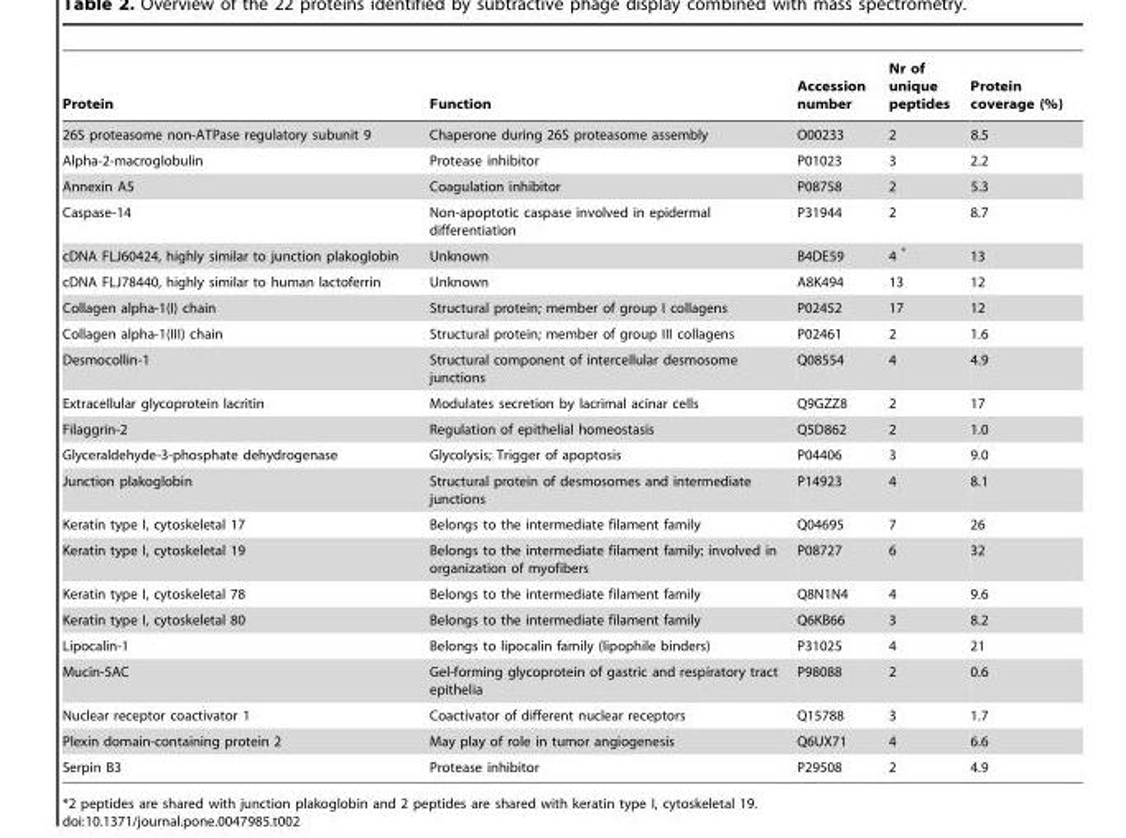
<table><thead><tr><td>Protein</td><td>Function</td><td>Accession number</td><td>Nr of unique peptides</td><td>Protein coverage (%)</td></tr></thead><tbody><tr><td>26S proteasome non-ATPase regulatory subunit 9</td><td>Chaperone during 26S proteasome assembly</td><td>O00233</td><td>2</td><td>8.5</td></tr><tr><td>Alpha-2-macroglobulin</td><td>Protease inhibitor</td><td>P01023</td><td>3</td><td>2.2</td></tr><tr><td>Annexin A5</td><td>Coagulation inhibitor</td><td>P08758</td><td>2</td><td>5.3</td></tr><tr><td>Caspase-14</td><td>Non-apoptotic caspase involved in epidermal differentiation</td><td>P31944</td><td>2</td><td>8.7</td></tr><tr><td>cDNA FLJ60424, highly similar to junction plakoglobin</td><td>Unknown</td><td>B4DE59</td><td>4 *</td><td>13</td></tr><tr><td>cDNA FLJ78440, highly similar to human lactoferrin</td><td>Unknown</td><td>A8K494</td><td>13</td><td>12</td></tr><tr><td>Collagen alpha-1(I) chain</td><td>Structural protein; member of group I collagens</td><td>P02452</td><td>17</td><td>12</td></tr><tr><td>Collagen alpha-1(III) chain</td><td>Structural protein; member of group III collagens</td><td>P02461</td><td>2</td><td>1.6</td></tr><tr><td>Desmocollin-1</td><td>Structural component of intercellular desmosome junctions</td><td>Q08554</td><td>4</td><td>4.9</td></tr><tr><td>Extracellular glycoprotein lacritin</td><td>Modulates secretion by lacrimal acinar cells</td><td>Q9GZZ8</td><td>2</td><td>17</td></tr><tr><td>Filaggrin-2</td><td>Regulation of epithelial homeostasis</td><td>Q5D862</td><td>2</td><td>1.0</td></tr><tr><td>Glyceraldehyde-3-phosphate dehydrogenase</td><td>Glycolysis; Trigger of apoptosis</td><td>P04406</td><td>3</td><td>9.0</td></tr><tr><td>Junction plakoglobin</td><td>Structural protein of desmosomes and intermediate junctions</td><td>P14923</td><td>4</td><td>8.1</td></tr><tr><td>Keratin type I, cytoskeletal 17</td><td>Belongs to the intermediate filament family</td><td>Q04695</td><td>7</td><td>26</td></tr><tr><td>Keratin type I, cytoskeletal 19</td><td>Belongs to the intermediate filament family; involved in organization of myofibers</td><td>P08727</td><td>6</td><td>32</td></tr><tr><td>Keratin type I, cytoskeletal 78</td><td>Belongs to the intermediate filament family</td><td>Q8N1N4</td><td>4</td><td>9.6</td></tr><tr><td>Keratin type I, cytoskeletal 80</td><td>Belongs to the intermediate filament family</td><td>Q6KB66</td><td>3</td><td>8.2</td></tr><tr><td>Lipocalin-1</td><td>Belongs to lipocalin family (lipophile binders)</td><td>P31025</td><td>4</td><td>21</td></tr><tr><td>Mucin-5AC</td><td>Gel-forming glycoprotein of gastric and respiratory tract epithelia</td><td>P98088</td><td>2</td><td>0.6</td></tr><tr><td>Nuclear receptor coactivator 1</td><td>Coactivator of different nuclear receptors</td><td>Q15788</td><td>3</td><td>1.7</td></tr><tr><td>Plexin domain-containing protein 2</td><td>May play of role in tumor angiogenesis</td><td>Q6UX71</td><td>4</td><td>6.6</td></tr><tr><td>Serpin B3</td><td>Protease inhibitor</td><td>P29508</td><td>2</td><td>4.9</td></tr></tbody></table>